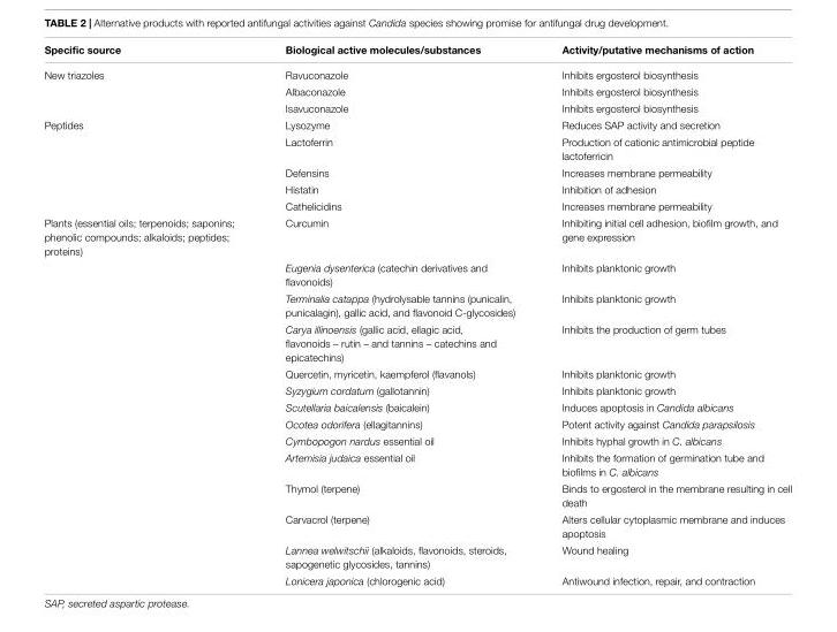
<table><thead><tr><td>Specific source</td><td>Biological active molecules/substances</td><td>Activity/putative mechanisms of action</td></tr></thead><tbody><tr><td rowspan="3">New triazoles</td><td>Ravuconazole</td><td>Inhibits ergosterol biosynthesis</td></tr><tr><td>Albaconazole</td><td>Inhibits ergosterol biosynthesis</td></tr><tr><td>Isavuconazole</td><td>Inhibits ergosterol biosynthesis</td></tr><tr><td rowspan="5">Peptides</td><td>Lysozyme</td><td>Reduces SAP activity and secretion</td></tr><tr><td>Lactoferrin</td><td>Production of cationic antimicrobial peptide lactoferricin</td></tr><tr><td>Defensins</td><td>Increases membrane permeability</td></tr><tr><td>Histatin</td><td>Inhibition of adhesion</td></tr><tr><td>Cathelicidins</td><td>Increases membrane permeability</td></tr><tr><td rowspan="14">Plants (essential oils; terpenoids; saponins; phenolic compounds; alkaloids; peptides; proteins)</td><td>Curcumin</td><td>Inhibiting initial cell adhesion, biofilm growth, and gene expression</td></tr><tr><td>Eugenia dysenterica (catechin derivatives and flavonoids)</td><td>Inhibits planktonic growth</td></tr><tr><td>Terminalia catappa (hydrolysable tannins (punicalin, punicalagin), gallic acid, and flavonoid C-glycosides)</td><td>Inhibits planktonic growth</td></tr><tr><td>Carya illinoensis (gallic acid, ellagic acid, flavonoids – rutin – and tannins – catechins and epicatechins)</td><td>Inhibits the production of germ tubes</td></tr><tr><td>Quercetin, myricetin, kaempferol (flavanols)</td><td>Inhibits planktonic growth</td></tr><tr><td>Syzygium cordatum (gallotannin)</td><td>Inhibits planktonic growth</td></tr><tr><td>Scutellaria baicalensis (baicalein)</td><td>Induces apoptosis in Candida albicans</td></tr><tr><td>Ocotea odorifera (ellagitannins)</td><td>Potent activity against Candida parapsilosis</td></tr><tr><td>Cymbopogon nardus essential oil</td><td>Inhibits hyphal growth in C. albicans</td></tr><tr><td>Artemisia judaica essential oil</td><td>Inhibits the formation of germination tube and biofilms in C. albicans</td></tr><tr><td>Thymol (terpene)</td><td>Binds to ergosterol in the membrane resulting in cell death</td></tr><tr><td>Carvacrol (terpene)</td><td>Alters cellular cytoplasmic membrane and induces apoptosis</td></tr><tr><td>Lannea welwitschii (alkaloids, flavonoids, steroids, sapogenetic glycosides, tannins)</td><td>Wound healing</td></tr><tr><td>Lonicera japonica (chlorogenic acid)</td><td>Antiwound infection, repair, and contraction</td></tr></tbody></table>